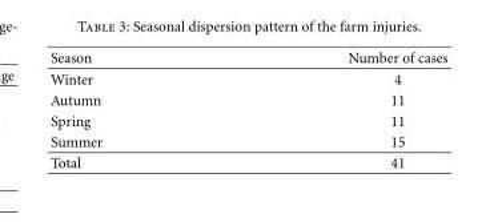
<table><thead><tr><td>Season</td><td>Number of cases</td></tr></thead><tbody><tr><td>Winter</td><td>4</td></tr><tr><td>Autumn</td><td>11</td></tr><tr><td>Spring</td><td>11</td></tr><tr><td>Summer</td><td>15</td></tr><tr><td>Total</td><td>41</td></tr></tbody></table>